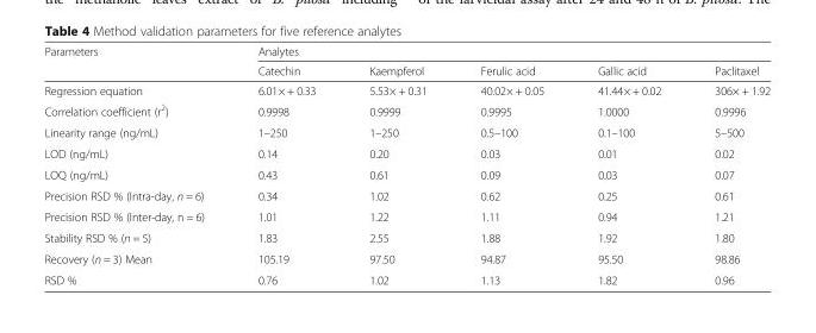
<table><thead><tr><td rowspan="2">Parameters</td><td colspan="5">Analytes</td></tr><tr><td>Catechin</td><td>Kaempferol</td><td>Ferulic acid</td><td>Gallic acid</td><td>Paclitaxel</td></tr></thead><tbody><tr><td>Regression equation</td><td>6.01× + 0.33</td><td>5.53× + 0.31</td><td>40.02× + 0.05</td><td>41.44× + 0.02</td><td>306× + 1.92</td></tr><tr><td>Correlation coefficient (r<sup>2</sup>)</td><td>0.9998</td><td>0.9999</td><td>0.9995</td><td>1.0000</td><td>0.9996</td></tr><tr><td>Linearity range (ng/mL)</td><td>1–250</td><td>1–250</td><td>0.5–100</td><td>0.1–100</td><td>5–500</td></tr><tr><td>LOD (ng/mL)</td><td>0.14</td><td>0.20</td><td>0.03</td><td>0.01</td><td>0.02</td></tr><tr><td>LOQ (ng/mL)</td><td>0.43</td><td>0.61</td><td>0.09</td><td>0.03</td><td>0.07</td></tr><tr><td>Precision RSD % (Intra-day, n = 6)</td><td>0.34</td><td>1.02</td><td>0.62</td><td>0.25</td><td>0.61</td></tr><tr><td>Precision RSD % (Inter-day, n = 6)</td><td>1.01</td><td>1.22</td><td>1.11</td><td>0.94</td><td>1.21</td></tr><tr><td>Stability RSD % (n = 5)</td><td>1.83</td><td>2.55</td><td>1.88</td><td>1.92</td><td>1.80</td></tr><tr><td>Recovery (n = 3) Mean</td><td>105.19</td><td>97.50</td><td>94.87</td><td>95.50</td><td>98.86</td></tr><tr><td>RSD %</td><td>0.76</td><td>1.02</td><td>1.13</td><td>1.82</td><td>0.96</td></tr></tbody></table>